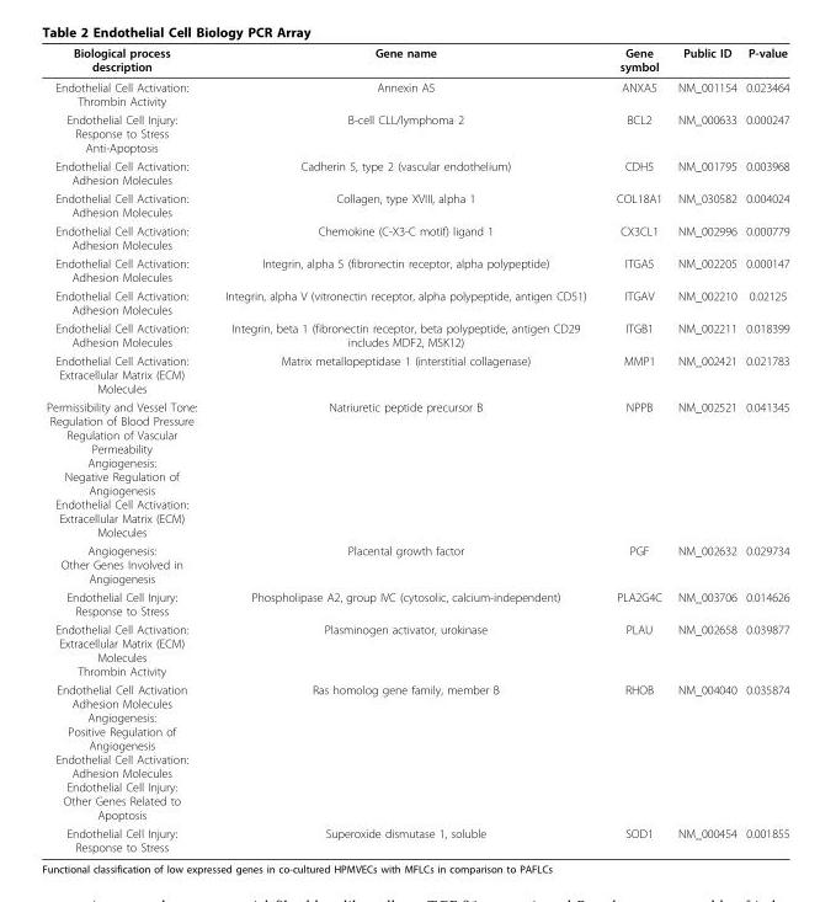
<table><thead><tr><td>Biological process description</td><td>Gene name</td><td>Gene symbol</td><td>Public ID</td><td>P-value</td></tr></thead><tbody><tr><td>Endothelial Cell Activation: Thrombin Activity</td><td>Annexin A5</td><td>ANXA5</td><td>NM_001154</td><td>0.023464</td></tr><tr><td>Endothelial Cell Injury: Response to Stress Anti-Apoptosis</td><td>B-cell CLL/lymphoma 2</td><td>BCL2</td><td>NM_000633</td><td>0.000247</td></tr><tr><td>Endothelial Cell Activation: Adhesion Molecules</td><td>Cadherin 5, type 2 (vascular endothelium)</td><td>CDH5</td><td>NM_001795</td><td>0.003968</td></tr><tr><td>Endothelial Cell Activation: Adhesion Molecules</td><td>Collagen, type XVIII, alpha 1</td><td>COL18A1</td><td>NM_030582</td><td>0.004024</td></tr><tr><td>Endothelial Cell Activation: Adhesion Molecules</td><td>Chemokine (C-X3-C motif) ligand 1</td><td>CX3CL1</td><td>NM_002996</td><td>0.000779</td></tr><tr><td>Endothelial Cell Activation: Adhesion Molecules</td><td>Integrin, alpha 5 (fibronectin receptor, alpha polypeptide)</td><td>ITGA5</td><td>NM_002205</td><td>0.000147</td></tr><tr><td>Endothelial Cell Activation: Adhesion Molecules</td><td>Integrin, alpha V (vitronectin receptor, alpha polypeptide, antigen CD51)</td><td>ITGAV</td><td>NM_002210</td><td>0.02125</td></tr><tr><td>Endothelial Cell Activation: Adhesion Molecules</td><td>Integrin, beta 1 (fibronectin receptor, beta polypeptide, antigen CD29 includes MDF2, MSK12)</td><td>ITGB1</td><td>NM_002211</td><td>0.018399</td></tr><tr><td>Endothelial Cell Activation: Extracellular Matrix (ECM) Molecules</td><td>Matrix metallopeptidase 1 (interstitial collagenase)</td><td>MMP1</td><td>NM_002421</td><td>0.021783</td></tr><tr><td>Permissibility and Vessel Tone: Regulation of Blood Pressure Regulation of Vascular Permeability Angiogenesis: Negative Regulation of Angiogenesis Endothelial Cell Activation: Extracellular Matrix (ECM) Molecules</td><td>Natriuretic peptide precursor B</td><td>NPPB</td><td>NM_002521</td><td>0.041345</td></tr><tr><td>Angiogenesis: Other Genes Involved in Angiogenesis</td><td>Placental growth factor</td><td>PGF</td><td>NM_002632</td><td>0.029734</td></tr><tr><td>Endothelial Cell Injury: Response to Stress</td><td>Phospholipase A2, group IVC (cytosolic, calcium-independent)</td><td>PLA2G4C</td><td>NM_003706</td><td>0.014626</td></tr><tr><td>Endothelial Cell Activation: Extracellular Matrix (ECM) Molecules Thrombin Activity</td><td>Plasminogen activator, urokinase</td><td>PLAU</td><td>NM_002658</td><td>0.039877</td></tr><tr><td>Endothelial Cell Activation Adhesion Molecules Angiogenesis: Positive Regulation of Angiogenesis Endothelial Cell Activation: Adhesion Molecules Endothelial Cell Injury: Other Genes Related to Apoptosis</td><td>Ras homolog gene family, member B</td><td>RHOB</td><td>NM_004040</td><td>0.035874</td></tr><tr><td>Endothelial Cell Injury: Response to Stress</td><td>Superoxide dismutase 1, soluble</td><td>SOD1</td><td>NM_000454</td><td>0.001855</td></tr></tbody></table>